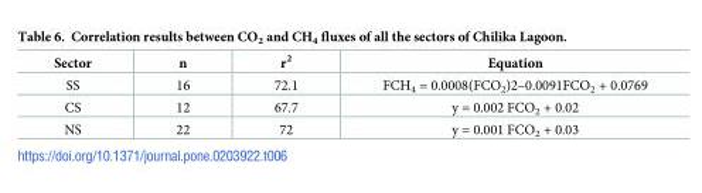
<table><thead><tr><td>Sector</td><td>n</td><td>r<sup>2</sup></td><td>Equation</td></tr></thead><tbody><tr><td>SS</td><td>16</td><td>72.1</td><td>FCH<sub>4</sub> = 0.0008(FCO<sub>2</sub>)2–0.0091FCO<sub>2</sub> + 0.0769</td></tr><tr><td>CS</td><td>12</td><td>67.7</td><td>y = 0.002 FCO<sub>2</sub> + 0.02</td></tr><tr><td>NS</td><td>22</td><td>72</td><td>y = 0.001 FCO<sub>2</sub> + 0.03</td></tr></tbody></table>